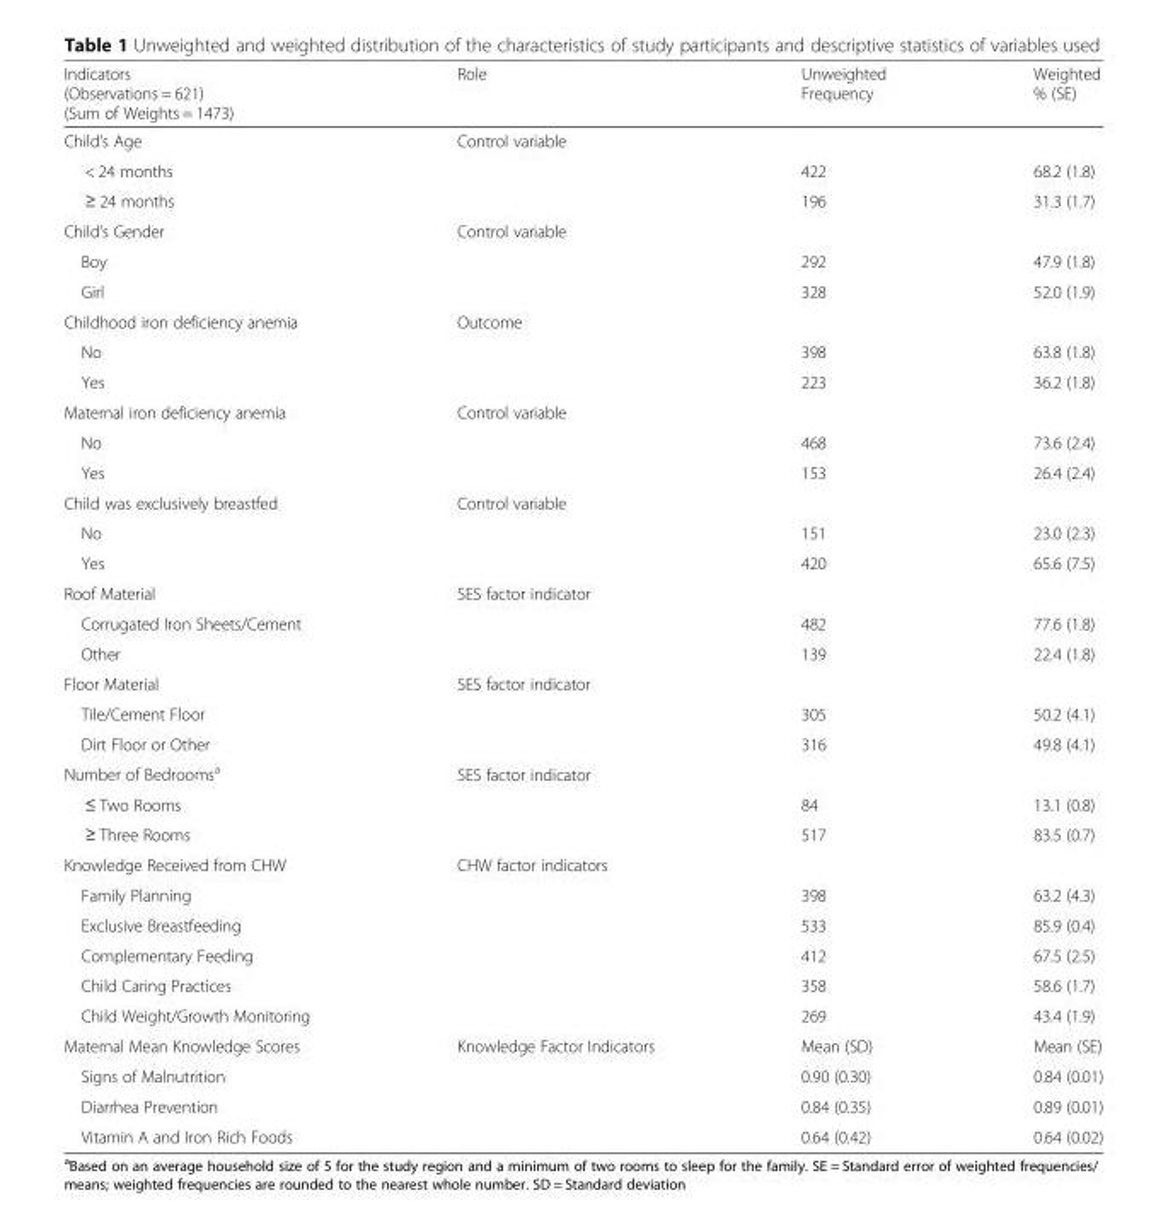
<table><thead><tr><td>Indicators (Observations = 621) (Sum of Weights = 1473)</td><td>Role</td><td>Unweighted Frequency</td><td>Weighted % (SE)</td></tr></thead><tbody><tr><td>Child’s Age</td><td>Control variable</td><td></td><td></td></tr><tr><td>&lt; 24 months</td><td></td><td>422</td><td>68.2 (1.8)</td></tr><tr><td>≥ 24 months</td><td></td><td>196</td><td>31.3 (1.7)</td></tr><tr><td>Child’s Gender</td><td>Control variable</td><td></td><td></td></tr><tr><td>Boy</td><td></td><td>292</td><td>47.9 (1.8)</td></tr><tr><td>Girl</td><td></td><td>328</td><td>52.0 (1.9)</td></tr><tr><td>Childhood iron deficiency anemia</td><td>Outcome</td><td></td><td></td></tr><tr><td>No</td><td></td><td>398</td><td>63.8 (1.8)</td></tr><tr><td>Yes</td><td></td><td>223</td><td>36.2 (1.8)</td></tr><tr><td>Maternal iron deficiency anemia</td><td>Control variable</td><td></td><td></td></tr><tr><td>No</td><td></td><td>468</td><td>73.6 (2.4)</td></tr><tr><td>Yes</td><td></td><td>153</td><td>26.4 (2.4)</td></tr><tr><td>Child was exclusively breastfed</td><td>Control variable</td><td></td><td></td></tr><tr><td>No</td><td></td><td>151</td><td>23.0 (2.3)</td></tr><tr><td>Yes</td><td></td><td>420</td><td>65.6 (7.5)</td></tr><tr><td>Roof Material</td><td>SES factor indicator</td><td></td><td></td></tr><tr><td>Corrugated Iron Sheets/Cement</td><td></td><td>482</td><td>77.6 (1.8)</td></tr><tr><td>Other</td><td></td><td>139</td><td>22.4 (1.8)</td></tr><tr><td>Floor Material</td><td>SES factor indicator</td><td></td><td></td></tr><tr><td>Tile/Cement Floor</td><td></td><td>305</td><td>50.2 (4.1)</td></tr><tr><td>Dirt Floor or Other</td><td></td><td>316</td><td>49.8 (4.1)</td></tr><tr><td>Number of Bedrooms<sup>a</sup></td><td>SES factor indicator</td><td></td><td></td></tr><tr><td>≤ Two Rooms</td><td></td><td>84</td><td>13.1 (0.8)</td></tr><tr><td>≥ Three Rooms</td><td></td><td>517</td><td>83.5 (0.7)</td></tr><tr><td>Knowledge Received from CHW</td><td>CHW factor indicators</td><td></td><td></td></tr><tr><td>Family Planning</td><td></td><td>398</td><td>63.2 (4.3)</td></tr><tr><td>Exclusive Breastfeeding</td><td></td><td>533</td><td>85.9 (0.4)</td></tr><tr><td>Complementary Feeding</td><td></td><td>412</td><td>67.5 (2.5)</td></tr><tr><td>Child Caring Practices</td><td></td><td>358</td><td>58.6 (1.7)</td></tr><tr><td>Child Weight/Growth Monitoring</td><td></td><td>269</td><td>43.4 (1.9)</td></tr><tr><td>Maternal Mean Knowledge Scores</td><td>Knowledge Factor Indicators</td><td>Mean (SD)</td><td>Mean (SE)</td></tr><tr><td>Signs of Malnutrition</td><td></td><td>0.90 (0.30)</td><td>0.84 (0.01)</td></tr><tr><td>Diarrhea Prevention</td><td></td><td>0.84 (0.35)</td><td>0.89 (0.01)</td></tr><tr><td>Vitamin A and Iron Rich Foods</td><td></td><td>0.64 (0.42)</td><td>0.64 (0.02)</td></tr></tbody></table>